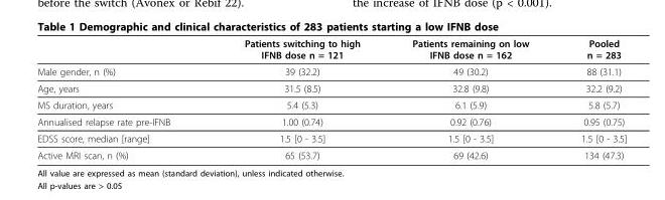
<table><thead><tr><td></td><td>Patients switching to high IFNB dose n = 121</td><td>Patients remaining on low IFNB dose n = 162</td><td>Pooled n = 283</td></tr></thead><tbody><tr><td>Male gender, n (%)</td><td>39 (32.2)</td><td>49 (30.2)</td><td>88 (31.1)</td></tr><tr><td>Age, years</td><td>31.5 (8.5)</td><td>32.8 (9.8)</td><td>32.2 (9.2)</td></tr><tr><td>MS duration, years</td><td>5.4 (5.3)</td><td>6.1 (5.9)</td><td>5.8 (5.7)</td></tr><tr><td>Annualised relapse rate pre-IFNB</td><td>1.00 (0.74)</td><td>0.92 (0.76)</td><td>0.95 (0.75)</td></tr><tr><td>EDSS score, median [range]</td><td>1.5 [0 - 3.5]</td><td>1.5 [0 - 3.5]</td><td>1.5 [0 - 3.5]</td></tr><tr><td>Active MRI scan, n (%)</td><td>65 (53.7)</td><td>69 (42.6)</td><td>134 (47.3)</td></tr></tbody></table>